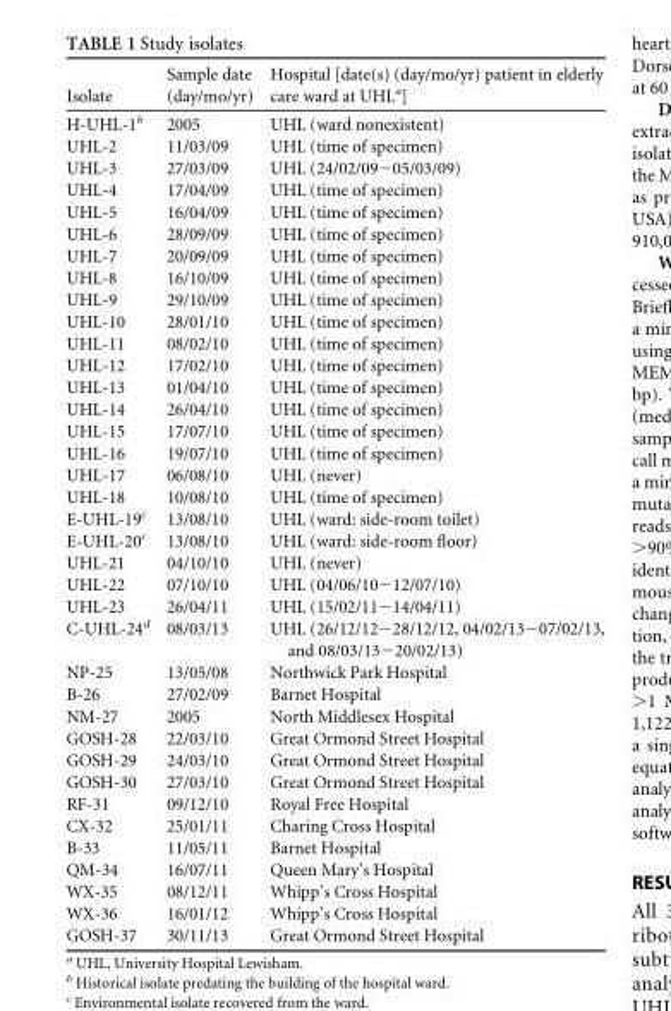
<table><thead><tr><td>Isolate</td><td>Sample date (day/mo/yr)</td><td>Hospital [date(s) (day/mo/yr) patient in elderly care ward at UHL<sup>a</sup>]</td></tr></thead><tbody><tr><td>H-UHL-1<sup>b</sup></td><td>2005</td><td>UHL (ward nonexistent)</td></tr><tr><td>UHL-2</td><td>11/03/09</td><td>UHL (time of specimen)</td></tr><tr><td>UHL-3</td><td>27/03/09</td><td>UHL (24/02/09−05/03/09)</td></tr><tr><td>UHL-4</td><td>17/04/09</td><td>UHL (time of specimen)</td></tr><tr><td>UHL-5</td><td>16/04/09</td><td>UHL (time of specimen)</td></tr><tr><td>UHL-6</td><td>28/09/09</td><td>UHL (time of specimen)</td></tr><tr><td>UHL-7</td><td>20/09/09</td><td>UHL (time of specimen)</td></tr><tr><td>UHL-8</td><td>16/10/09</td><td>UHL (time of specimen)</td></tr><tr><td>UHL-9</td><td>29/10/09</td><td>UHL (time of specimen)</td></tr><tr><td>UHL-10</td><td>28/01/10</td><td>UHL (time of specimen)</td></tr><tr><td>UHL-11</td><td>08/02/10</td><td>UHL (time of specimen)</td></tr><tr><td>UHL-12</td><td>17/02/10</td><td>UHL (time of specimen)</td></tr><tr><td>UHL-13</td><td>01/04/10</td><td>UHL (time of specimen)</td></tr><tr><td>UHL-14</td><td>26/04/10</td><td>UHL (time of specimen)</td></tr><tr><td>UHL-15</td><td>17/07/10</td><td>UHL (time of specimen)</td></tr><tr><td>UHL-16</td><td>19/07/10</td><td>UHL (time of specimen)</td></tr><tr><td>UHL-17</td><td>06/08/10</td><td>UHL (never)</td></tr><tr><td>UHL-18</td><td>10/08/10</td><td>UHL (time of specimen)</td></tr><tr><td>E-UHL-19<sup>c</sup></td><td>13/08/10</td><td>UHL (ward: side-room toilet)</td></tr><tr><td>E-UHL-20<sup>c</sup></td><td>13/08/10</td><td>UHL (ward: side-room floor)</td></tr><tr><td>UHL-21</td><td>04/10/10</td><td>UHL (never)</td></tr><tr><td>UHL-22</td><td>07/10/10</td><td>UHL (04/06/10−12/07/10)</td></tr><tr><td>UHL-23</td><td>26/04/11</td><td>UHL (15/02/11−14/04/11)</td></tr><tr><td>C-UHL-24<sup>d</sup></td><td>08/03/13</td><td>UHL (26/12/12−28/12/12, 04/02/13−07/02/13, and 08/03/13−20/02/13)</td></tr><tr><td>NP-25</td><td>13/05/08</td><td>Northwick Park Hospital</td></tr><tr><td>B-26</td><td>27/02/09</td><td>Barnet Hospital</td></tr><tr><td>NM-27</td><td>2005</td><td>North Middlesex Hospital</td></tr><tr><td>GOSH-28</td><td>22/03/10</td><td>Great Ormond Street Hospital</td></tr><tr><td>GOSH-29</td><td>24/03/10</td><td>Great Ormond Street Hospital</td></tr><tr><td>GOSH-30</td><td>27/03/10</td><td>Great Ormond Street Hospital</td></tr><tr><td>RF-31</td><td>09/12/10</td><td>Royal Free Hospital</td></tr><tr><td>CX-32</td><td>25/01/11</td><td>Charing Cross Hospital</td></tr><tr><td>B-33</td><td>11/05/11</td><td>Barnet Hospital</td></tr><tr><td>QM-34</td><td>16/07/11</td><td>Queen Mary’s Hospital</td></tr><tr><td>WX-35</td><td>08/12/11</td><td>Whipp’s Cross Hospital</td></tr><tr><td>WX-36</td><td>16/01/12</td><td>Whipp’s Cross Hospital</td></tr><tr><td>GOSH-37</td><td>30/11/13</td><td>Great Ormond Street Hospital</td></tr></tbody></table>